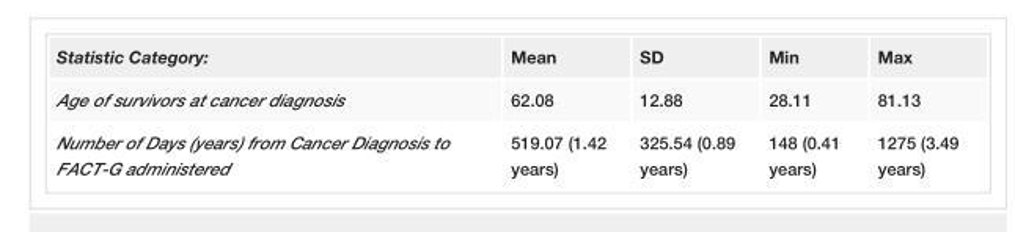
<table><tbody><tr><td>Statistic Category:</td><td>Mean</td><td>SD</td><td>Min</td><td>Max</td></tr><tr><td>Age of survivors at cancer diagnosis</td><td>62.08</td><td>12.88</td><td>28.11</td><td>81.13</td></tr><tr><td>Number of Days (years) from Cancer Diagnosis to FACT-G administered</td><td>519.07 (1.42 years)</td><td>325.54 (0.89 years)</td><td>148 (0.41 years)</td><td>1275 (3.49 years)</td></tr></tbody></table>